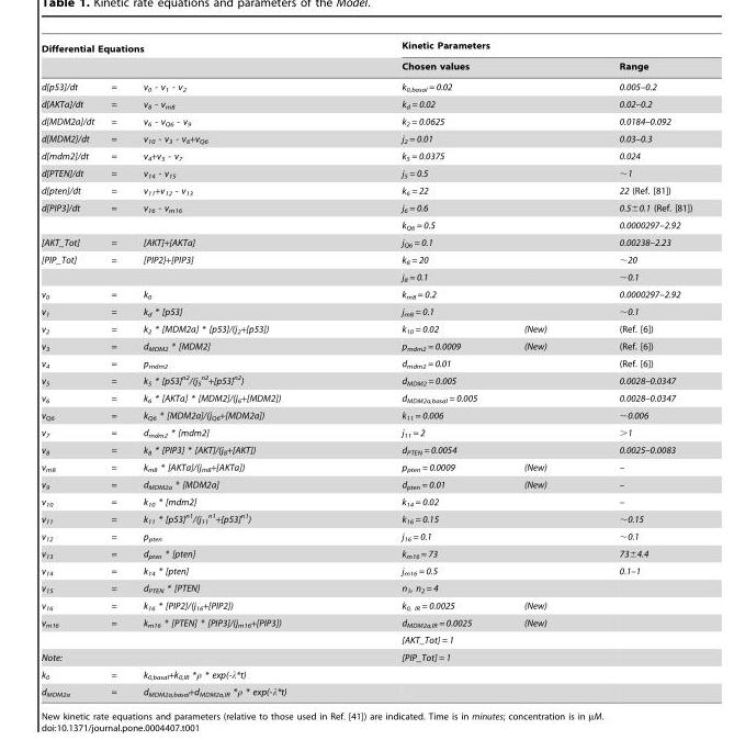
<table><thead><tr><td colspan="3">Differential Equations</td><td colspan="3">Kinetic Parameters</td></tr><tr><td rowspan="2">d[p53]/dt</td><td rowspan="2">=</td><td rowspan="2">v<sub>0</sub> - v<sub>1</sub> - v<sub>2</sub></td><td colspan="2">Chosen values</td><td rowspan="2">Range 0.005–0.2</td></tr><tr><td>k<sub>0,basal</sub> = 0.02</td><td></td></tr></thead><tbody><tr><td>d[AKTa]/dt</td><td>=</td><td>v<sub>8</sub> - v<sub>m8</sub></td><td>k<sub>d</sub> = 0.02</td><td></td><td>0.02–0.2</td></tr><tr><td>d[MDM2a]/dt</td><td>=</td><td>v<sub>6</sub> - v<sub>Q6</sub> - v<sub>9</sub></td><td>k<sub>2</sub> = 0.0625</td><td></td><td>0.0184–0.092</td></tr><tr><td>d[MDM2]/dt</td><td>=</td><td>v<sub>10</sub> - v<sub>3</sub> - v<sub>6</sub>+v<sub>Q6</sub></td><td>j<sub>2</sub> = 0.01</td><td></td><td>0.03–0.3</td></tr><tr><td>d[mdm2]/dt</td><td>=</td><td>v<sub>4</sub>+v<sub>5</sub> - v<sub>7</sub></td><td>k<sub>5</sub> = 0.0375</td><td></td><td>0.024</td></tr><tr><td>d[PTEN]/dt</td><td>=</td><td>v<sub>14</sub> - v<sub>15</sub></td><td>j<sub>5</sub> = 0.5</td><td></td><td>∼1</td></tr><tr><td>d[pten]/dt</td><td>=</td><td>v<sub>11</sub>+v<sub>12</sub> - v<sub>13</sub></td><td>k<sub>6</sub> = 22</td><td></td><td>22 (Ref. [81])</td></tr><tr><td rowspan="2">d[PIP3]/dt</td><td>=</td><td>v<sub>16</sub> - v<sub>m16</sub></td><td>j<sub>6</sub> = 0.6</td><td></td><td>0.5±0.1 (Ref. [81])</td></tr><tr><td></td><td></td><td>k<sub>Q6</sub> = 0.5</td><td></td><td>0.0000297–2.92</td></tr><tr><td>[AKT_Tot]</td><td>=</td><td>[AKT]+[AKTa]</td><td>j<sub>Q6</sub> = 0.1</td><td></td><td>0.00238–2.23</td></tr><tr><td rowspan="2">[PIP_Tot]</td><td>=</td><td>[PIP2]+[PIP3]</td><td>k<sub>8</sub> = 20</td><td></td><td>∼20</td></tr><tr><td></td><td></td><td>j<sub>8</sub> = 0.1</td><td></td><td>∼0.1</td></tr><tr><td>v<sub>0</sub></td><td>=</td><td>k<sub>0</sub></td><td>k<sub>m8</sub> = 0.2</td><td></td><td>0.0000297–2.92</td></tr><tr><td>v<sub>1</sub></td><td>=</td><td>k<sub>d</sub> * [p53]</td><td>j<sub>m8</sub> = 0.1</td><td></td><td>∼0.1</td></tr><tr><td>v<sub>2</sub></td><td>=</td><td>k<sub>2</sub> * [MDM2a] * [p53]/(j<sub>2</sub>+[p53])</td><td>k<sub>10</sub> = 0.02</td><td>(New)</td><td>(Ref. [6])</td></tr><tr><td>v<sub>3</sub></td><td>=</td><td>d<sub>MDM2</sub> * [MDM2]</td><td>p<sub>mdm2</sub> = 0.0009</td><td>(New)</td><td>(Ref. [6])</td></tr><tr><td>v<sub>4</sub></td><td>=</td><td>p<sub>mdm2</sub></td><td>d<sub>mdm2</sub> = 0.01</td><td></td><td>(Ref. [6])</td></tr><tr><td>v<sub>5</sub></td><td>=</td><td>k<sub>5</sub> * [p53]<sup>n2</sup>/(j<sub>5</sub> <sup>n2</sup>+[p53]<sup>n2</sup>)</td><td>d<sub>MDM2</sub> = 0.005</td><td></td><td>0.0028–0.0347</td></tr><tr><td>v<sub>6</sub></td><td>=</td><td>k<sub>6</sub> * [AKTa] * [MDM2]/(j<sub>6</sub>+[MDM2])</td><td>d<sub>MDM2a,basal</sub> = 0.005</td><td></td><td>0.0028–0.0347</td></tr><tr><td>v<sub>Q6</sub></td><td>=</td><td>k<sub>Q6</sub> * [MDM2a]/(j<sub>Q6</sub>+[MDM2a])</td><td>k<sub>11</sub> = 0.006</td><td></td><td>∼0.006</td></tr><tr><td>v<sub>7</sub></td><td>=</td><td>d<sub>mdm2</sub> * [mdm2]</td><td>j<sub>11</sub> = 2</td><td></td><td>&gt;1</td></tr><tr><td>v<sub>8</sub></td><td>=</td><td>k<sub>8</sub> * [PIP3] * [AKT]/(j<sub>8</sub>+[AKT])</td><td>d<sub>PTEN</sub> = 0.0054</td><td></td><td>0.0025–0.0083</td></tr><tr><td>v<sub>m8</sub></td><td>=</td><td>k<sub>m8</sub> * [AKTa]/(j<sub>m8</sub>+[AKTa])</td><td>p<sub>pten</sub> = 0.0009</td><td>(New)</td><td>–</td></tr><tr><td>v<sub>9</sub></td><td>=</td><td>d<sub>MDM2a</sub> * [MDM2a]</td><td>d<sub>pten</sub> = 0.01</td><td>(New)</td><td>–</td></tr><tr><td>v<sub>10</sub></td><td>=</td><td>k<sub>10</sub> * [mdm2]</td><td>k<sub>14</sub> = 0.02</td><td></td><td>–</td></tr><tr><td>v<sub>11</sub></td><td>=</td><td>k<sub>11</sub> * [p53]<sup>n1</sup>/(j<sub>11</sub> <sup>n1</sup>+[p53]<sup>n1</sup>)</td><td>k<sub>16</sub> = 0.15</td><td></td><td>∼0.15</td></tr><tr><td>v<sub>12</sub></td><td>=</td><td>p<sub>pten</sub></td><td>j<sub>16</sub> = 0.1</td><td></td><td>∼0.1</td></tr><tr><td>v<sub>13</sub></td><td>=</td><td>d<sub>pten</sub> * [pten]</td><td>k<sub>m16</sub> = 73</td><td></td><td>73±4.4</td></tr><tr><td>v<sub>14</sub></td><td>=</td><td>k<sub>14</sub> * [pten]</td><td>j<sub>m16</sub> = 0.5</td><td></td><td>0.1–1</td></tr><tr><td>v<sub>15</sub></td><td>=</td><td>d<sub>PTEN</sub> * [PTEN]</td><td>n<sub>1</sub>, n<sub>2</sub> = 4</td><td></td><td></td></tr><tr><td>v<sub>16</sub></td><td>=</td><td>k<sub>16</sub> * [PIP2]/(j<sub>16</sub>+[PIP2])</td><td>k<sub>0, IR</sub> = 0.0025</td><td>(New)</td><td></td></tr><tr><td rowspan="2">v<sub>m16</sub></td><td>=</td><td>k<sub>m16</sub> * [PTEN] * [PIP3]/(j<sub>m16</sub>+[PIP3])</td><td>d<sub>MDM2a,IR</sub> = 0.0025</td><td>(New)</td><td></td></tr><tr><td></td><td></td><td>[AKT_Tot] = 1</td><td></td><td></td></tr><tr><td>Note:</td><td></td><td></td><td>[PIP_Tot] = 1</td><td></td><td></td></tr><tr><td>k<sub>0</sub></td><td>=</td><td>k<sub>0,basal</sub>+k<sub>0,IR</sub> *ρ * exp(-λ*t)</td><td></td><td></td><td></td></tr><tr><td>d<sub>MDM2a</sub></td><td>=</td><td>d<sub>MDM2a,basal</sub>+d<sub>MDM2a,IR</sub> *ρ * exp(-λ*t)</td><td></td><td></td><td></td></tr></tbody></table>